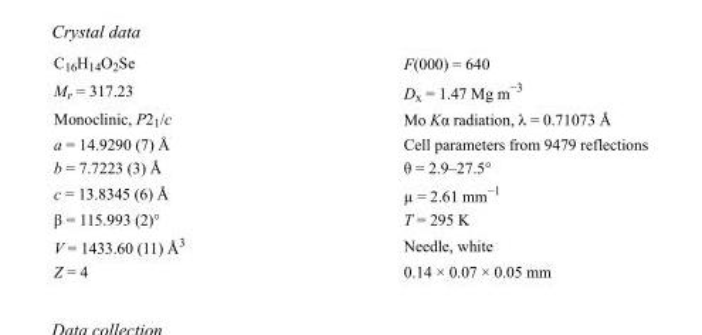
<table><tbody><tr><td>C<sub>16</sub>H<sub>14</sub>O<sub>2</sub>Se</td><td>F(000) = 640</td></tr><tr><td>M<sub>r</sub> = 317.23</td><td>D<sub>x</sub> = 1.47 Mg m<sup>−3</sup></td></tr><tr><td>Monoclinic, P2<sub>1</sub>/c</td><td>Mo Kα radiation, λ = 0.71073 Å</td></tr><tr><td>a = 14.9290 (7) Å</td><td>Cell parameters from 9479 reflections</td></tr><tr><td>b = 7.7223 (3) Å</td><td>θ = 2.9–27.5°</td></tr><tr><td>c = 13.8345 (6) Å</td><td>µ = 2.61 mm<sup>−1</sup></td></tr><tr><td>β = 115.993 (2)°</td><td>T = 295 K</td></tr><tr><td>V = 1433.60 (11) Å<sup>3</sup></td><td>Needle, white</td></tr><tr><td>Z = 4</td><td>0.14 × 0.07 × 0.05 mm</td></tr></tbody></table>